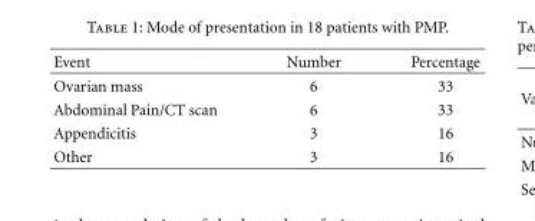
<table><thead><tr><td>Event</td><td>Number</td><td>Percentage</td></tr></thead><tbody><tr><td>Ovarian mass</td><td>6</td><td>33</td></tr><tr><td>Abdominal Pain/CT scan</td><td>6</td><td>33</td></tr><tr><td>Appendicitis</td><td>3</td><td>16</td></tr><tr><td>Other</td><td>3</td><td>16</td></tr></tbody></table>